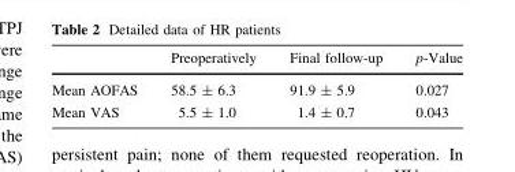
<table><thead><tr><td></td><td>Preoperatively</td><td>Final follow-up</td><td>p-Value</td></tr></thead><tbody><tr><td>Mean AOFAS</td><td>58.5 ± 6.3</td><td>91.9 ± 5.9</td><td>0.027</td></tr><tr><td>Mean VAS</td><td>5.5 ± 1.0</td><td>1.4 ± 0.7</td><td>0.043</td></tr></tbody></table>